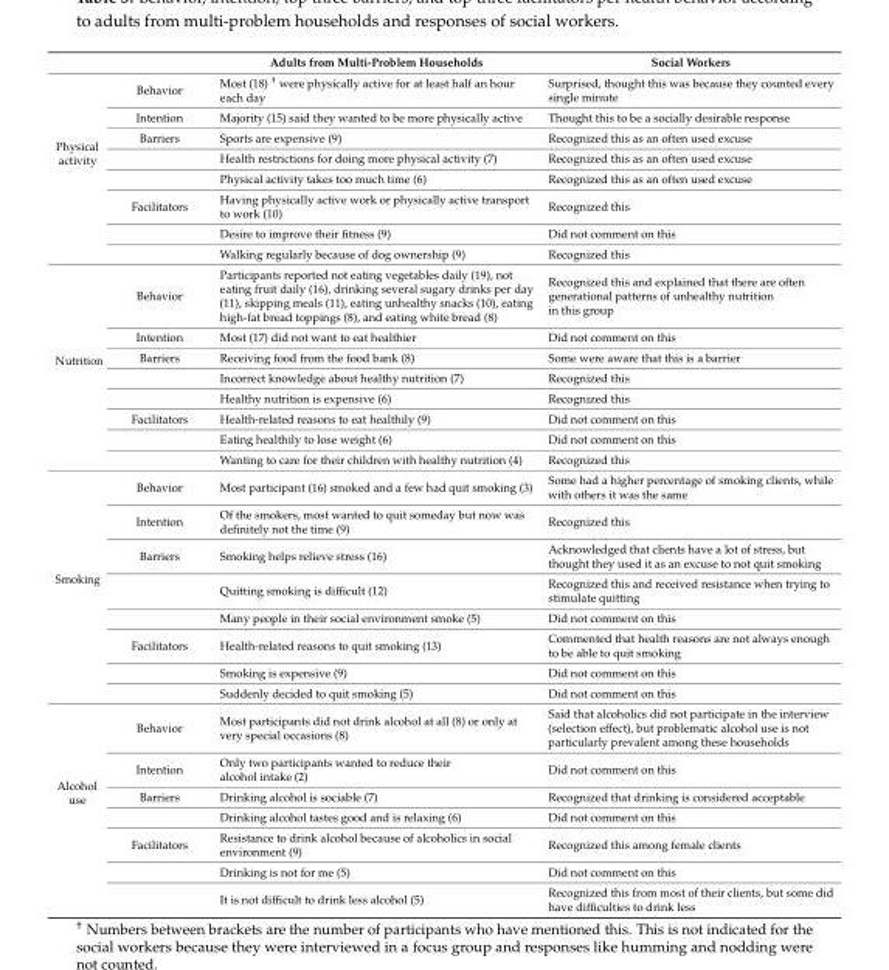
<table><thead><tr><td></td><td></td><td>Adults from Multi-Problem Households</td><td>Social Workers</td></tr></thead><tbody><tr><td rowspan="8">Physical activity</td><td>Behavior</td><td>Most (18) <sup>†</sup> were physically active for at least half an hour each day</td><td>Surprised, thought this was because they counted every single minute</td></tr><tr><td>Intention</td><td>Majority (15) said they wanted to be more physically active</td><td>Thought this to be a socially desirable response</td></tr><tr><td>Barriers</td><td>Sports are expensive (9)</td><td>Recognized this as an often used excuse</td></tr><tr><td></td><td>Health restrictions for doing more physical activity (7)</td><td>Recognized this as an often used excuse</td></tr><tr><td></td><td>Physical activity takes too much time (6)</td><td>Recognized this as an often used excuse</td></tr><tr><td>Facilitators</td><td>Having physically active work or physically active transport to work (10)</td><td>Recognized this</td></tr><tr><td></td><td>Desire to improve their fitness (9)</td><td>Did not comment on this</td></tr><tr><td></td><td>Walking regularly because of dog ownership (9)</td><td>Recognized this</td></tr><tr><td rowspan="8">Nutrition</td><td>Behavior</td><td>Participants reported not eating vegetables daily (19), not eating fruit daily (16), drinking several sugary drinks per day (11), skipping meals (11), eating unhealthy snacks (10), eating high-fat bread toppings (8), and eating white bread (8)</td><td>Recognized this and explained that there are often generational patterns of unhealthy nutrition in this group</td></tr><tr><td>Intention</td><td>Most (17) did not want to eat healthier</td><td>Did not comment on this</td></tr><tr><td>Barriers</td><td>Receiving food from the food bank (8)</td><td>Some were aware that this is a barrier</td></tr><tr><td></td><td>Incorrect knowledge about healthy nutrition (7)</td><td>Recognized this</td></tr><tr><td></td><td>Healthy nutrition is expensive (6)</td><td>Recognized this</td></tr><tr><td>Facilitators</td><td>Health-related reasons to eat healthily (9)</td><td>Did not comment on this</td></tr><tr><td></td><td>Eating healthily to lose weight (6)</td><td>Did not comment on this</td></tr><tr><td></td><td>Wanting to care for their children with healthy nutrition (4)</td><td>Recognized this</td></tr><tr><td rowspan="8">Smoking</td><td>Behavior</td><td>Most participant (16) smoked and a few had quit smoking (3)</td><td>Some had a higher percentage of smoking clients, while with others it was the same</td></tr><tr><td>Intention</td><td>Of the smokers, most wanted to quit someday but now was definitely not the time (9)</td><td>Recognized this</td></tr><tr><td>Barriers</td><td>Smoking helps relieve stress (16)</td><td>Acknowledged that clients have a lot of stress, but thought they used it as an excuse to not quit smoking</td></tr><tr><td></td><td>Quitting smoking is difficult (12)</td><td>Recognized this and received resistance when trying to stimulate quitting</td></tr><tr><td></td><td>Many people in their social environment smoke (5)</td><td>Did not comment on this</td></tr><tr><td>Facilitators</td><td>Health-related reasons to quit smoking (13)</td><td>Commented that health reasons are not always enough to be able to quit smoking</td></tr><tr><td></td><td>Smoking is expensive (9)</td><td>Did not comment on this</td></tr><tr><td></td><td>Suddenly decided to quit smoking (5)</td><td>Did not comment on this</td></tr><tr><td rowspan="7">Alcohol use</td><td>Behavior</td><td>Most participants did not drink alcohol at all (8) or only at very special occasions (8)</td><td>Said that alcoholics did not participate in the interview (selection effect), but problematic alcohol use is not particularly prevalent among these households</td></tr><tr><td>Intention</td><td>Only two participants wanted to reduce their alcohol intake (2)</td><td>Did not comment on this</td></tr><tr><td>Barriers</td><td>Drinking alcohol is sociable (7)</td><td>Recognized that drinking is considered acceptable</td></tr><tr><td></td><td>Drinking alcohol tastes good and is relaxing (6)</td><td>Did not comment on this</td></tr><tr><td>Facilitators</td><td>Resistance to drink alcohol because of alcoholics in social environment (9)</td><td>Recognized this among female clients</td></tr><tr><td></td><td>Drinking is not for me (5)</td><td>Did not comment on this</td></tr><tr><td></td><td>It is not difficult to drink less alcohol (5)</td><td>Recognized this from most of their clients, but some did have difficulties to drink less</td></tr></tbody></table>